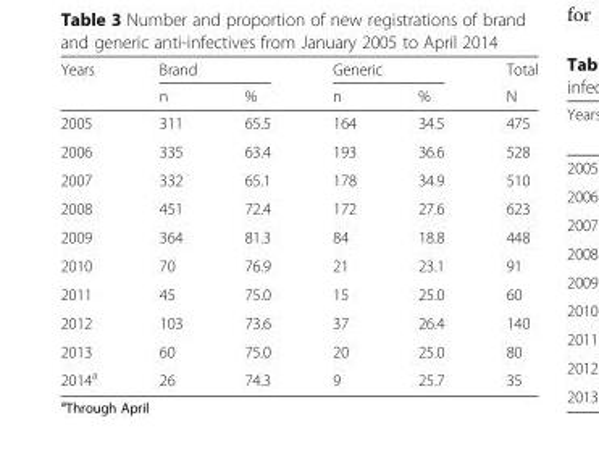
<table><thead><tr><td rowspan="2">Years</td><td colspan="2">Brand</td><td colspan="2">Generic</td><td rowspan="2">Total N</td></tr><tr><td>n</td><td>%</td><td>n</td><td>%</td></tr></thead><tbody><tr><td>2005</td><td>311</td><td>65.5</td><td>164</td><td>34.5</td><td>475</td></tr><tr><td>2006</td><td>335</td><td>63.4</td><td>193</td><td>36.6</td><td>528</td></tr><tr><td>2007</td><td>332</td><td>65.1</td><td>178</td><td>34.9</td><td>510</td></tr><tr><td>2008</td><td>451</td><td>72.4</td><td>172</td><td>27.6</td><td>623</td></tr><tr><td>2009</td><td>364</td><td>81.3</td><td>84</td><td>18.8</td><td>448</td></tr><tr><td>2010</td><td>70</td><td>76.9</td><td>21</td><td>23.1</td><td>91</td></tr><tr><td>2011</td><td>45</td><td>75.0</td><td>15</td><td>25.0</td><td>60</td></tr><tr><td>2012</td><td>103</td><td>73.6</td><td>37</td><td>26.4</td><td>140</td></tr><tr><td>2013</td><td>60</td><td>75.0</td><td>20</td><td>25.0</td><td>80</td></tr><tr><td>2014<sup>a</sup></td><td>26</td><td>74.3</td><td>9</td><td>25.7</td><td>35</td></tr></tbody></table>